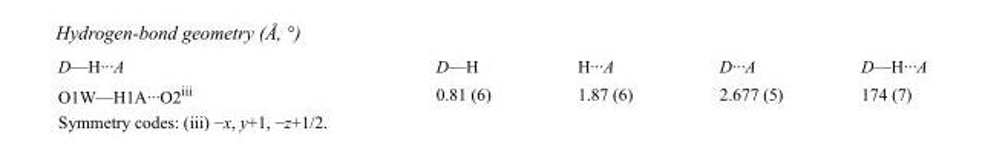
<table><tbody><tr><td>D—H···A</td><td>D—H</td><td>H···A</td><td>D···A</td><td>D—H···A</td></tr><tr><td>O1W—H1A···O2<sup>iii</sup></td><td>0.81 (6)</td><td>1.87 (6)</td><td>2.677 (5)</td><td>174 (7)</td></tr></tbody></table>